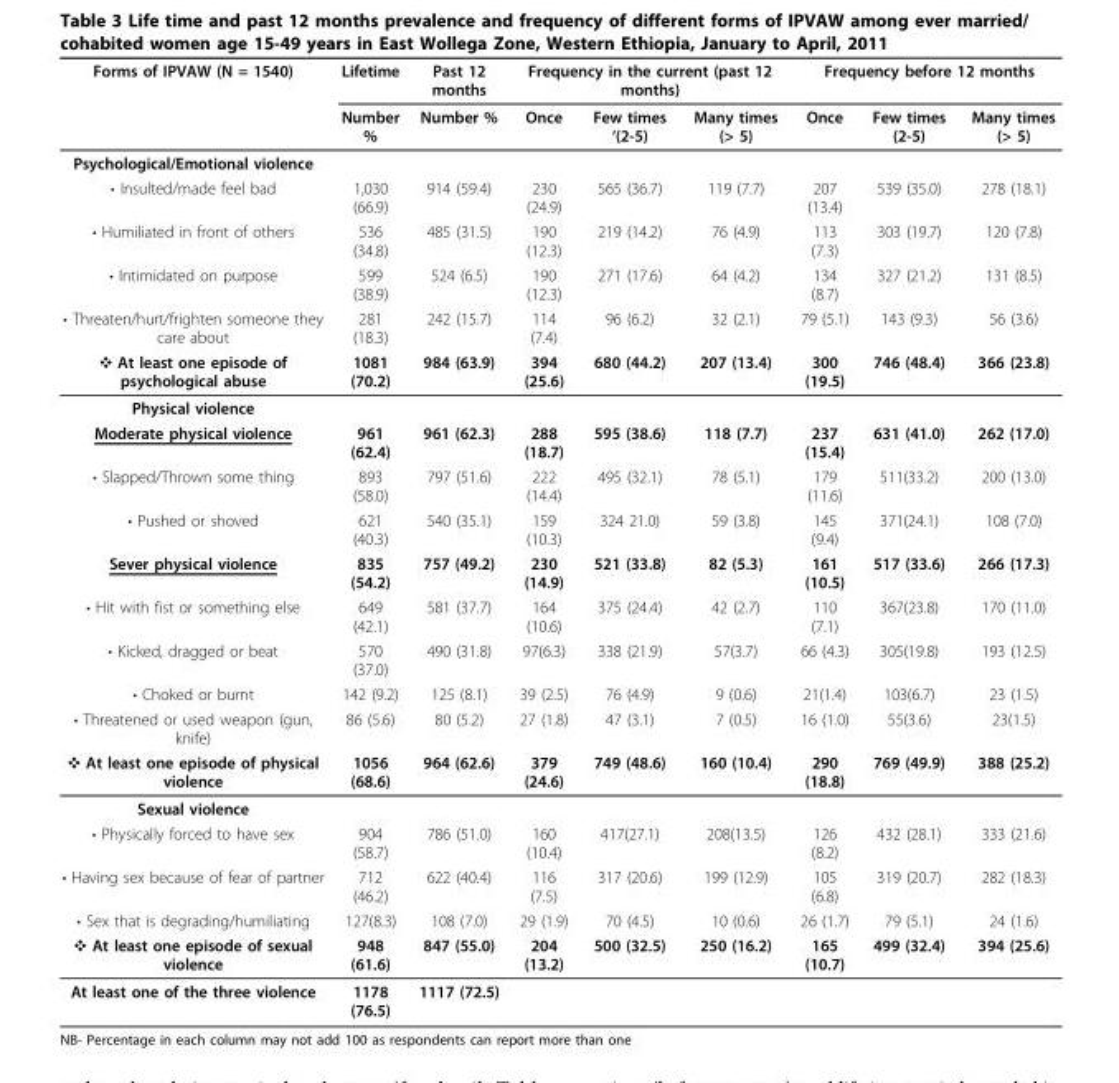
<table><thead><tr><td rowspan="2">Forms of IPVAW (N = 1540)</td><td rowspan="2">Lifetime Number %</td><td rowspan="2">Past 12 months Number %</td><td colspan="3">Frequency in the current (past 12 months)</td><td colspan="3">Frequency before 12 months</td></tr><tr><td>Once</td><td>Few times ‘(2-5)</td><td>Many times (&gt; 5)</td><td>Once</td><td>Few times (2-5)</td><td>Many times (&gt; 5)</td></tr></thead><tbody><tr><td colspan="9">Psychological/Emotional violence</td></tr><tr><td>• Insulted/made feel bad</td><td>1,030 (66.9)</td><td>914 (59.4)</td><td>230 (24.9)</td><td>565 (36.7)</td><td>119 (7.7)</td><td>207 (13.4)</td><td>539 (35.0)</td><td>278 (18.1)</td></tr><tr><td>• Humiliated in front of others</td><td>536 (34.8)</td><td>485 (31.5)</td><td>190 (12.3)</td><td>219 (14.2)</td><td>76 (4.9)</td><td>113 (7.3)</td><td>303 (19.7)</td><td>120 (7.8)</td></tr><tr><td>• Intimidated on purpose</td><td>599 (38.9)</td><td>524 (6.5)</td><td>190 (12.3)</td><td>271 (17.6)</td><td>64 (4.2)</td><td>134 (8.7)</td><td>327 (21.2)</td><td>131 (8.5)</td></tr><tr><td>• Threaten/hurt/frighten someone they care about</td><td>281 (18.3)</td><td>242 (15.7)</td><td>114 (7.4)</td><td>96 (6.2)</td><td>32 (2.1)</td><td>79 (5.1)</td><td>143 (9.3)</td><td>56 (3.6)</td></tr><tr><td>❖ At least one episode of psychological abuse</td><td>1081 (70.2)</td><td>984 (63.9)</td><td>394 (25.6)</td><td>680 (44.2)</td><td>207 (13.4)</td><td>300 (19.5)</td><td>746 (48.4)</td><td>366 (23.8)</td></tr><tr><td colspan="9">Physical violence</td></tr><tr><td>Moderate physical violence</td><td>961 (62.4)</td><td>961 (62.3)</td><td>288 (18.7)</td><td>595 (38.6)</td><td>118 (7.7)</td><td>237 (15.4)</td><td>631 (41.0)</td><td>262 (17.0)</td></tr><tr><td>• Slapped/Thrown some thing</td><td>893 (58.0)</td><td>797 (51.6)</td><td>222 (14.4)</td><td>495 (32.1)</td><td>78 (5.1)</td><td>179 (11.6)</td><td>511(33.2)</td><td>200 (13.0)</td></tr><tr><td>• Pushed or shoved</td><td>621 (40.3)</td><td>540 (35.1)</td><td>159 (10.3)</td><td>324 21.0)</td><td>59 (3.8)</td><td>145 (9.4)</td><td>371(24.1)</td><td>108 (7.0)</td></tr><tr><td>Sever physical violence</td><td>835 (54.2)</td><td>757 (49.2)</td><td>230 (14.9)</td><td>521 (33.8)</td><td>82 (5.3)</td><td>161 (10.5)</td><td>517 (33.6)</td><td>266 (17.3)</td></tr><tr><td>• Hit with fist or something else</td><td>649 (42.1)</td><td>581 (37.7)</td><td>164 (10.6)</td><td>375 (24.4)</td><td>42 (2.7)</td><td>110 (7.1)</td><td>367(23.8)</td><td>170 (11.0)</td></tr><tr><td>• Kicked, dragged or beat</td><td>570 (37.0)</td><td>490 (31.8)</td><td>97(6.3)</td><td>338 (21.9)</td><td>57(3.7)</td><td>66 (4.3)</td><td>305(19.8)</td><td>193 (12.5)</td></tr><tr><td>• Choked or burnt</td><td>142 (9.2)</td><td>125 (8.1)</td><td>39 (2.5)</td><td>76 (4.9)</td><td>9 (0.6)</td><td>21(1.4)</td><td>103(6.7)</td><td>23 (1.5)</td></tr><tr><td>• Threatened or used weapon (gun, knife)</td><td>86 (5.6)</td><td>80 (5.2)</td><td>27 (1.8)</td><td>47 (3.1)</td><td>7 (0.5)</td><td>16 (1.0)</td><td>55(3.6)</td><td>23(1.5)</td></tr><tr><td>❖ At least one episode of physical violence</td><td>1056 (68.6)</td><td>964 (62.6)</td><td>379 (24.6)</td><td>749 (48.6)</td><td>160 (10.4)</td><td>290 (18.8)</td><td>769 (49.9)</td><td>388 (25.2)</td></tr><tr><td colspan="9">Sexual violence</td></tr><tr><td>• Physically forced to have sex</td><td>904 (58.7)</td><td>786 (51.0)</td><td>160 (10.4)</td><td>417(27.1)</td><td>208(13.5)</td><td>126 (8.2)</td><td>432 (28.1)</td><td>333 (21.6)</td></tr><tr><td>• Having sex because of fear of partner</td><td>712 (46.2)</td><td>622 (40.4)</td><td>116 (7.5)</td><td>317 (20.6)</td><td>199 (12.9)</td><td>105 (6.8)</td><td>319 (20.7)</td><td>282 (18.3)</td></tr><tr><td>• Sex that is degrading/humiliating</td><td>127(8.3)</td><td>108 (7.0)</td><td>29 (1.9)</td><td>70 (4.5)</td><td>10 (0.6)</td><td>26 (1.7)</td><td>79 (5.1)</td><td>24 (1.6)</td></tr><tr><td>❖ At least one episode of sexual violence</td><td>948 (61.6)</td><td>847 (55.0)</td><td>204 (13.2)</td><td>500 (32.5)</td><td>250 (16.2)</td><td>165 (10.7)</td><td>499 (32.4)</td><td>394 (25.6)</td></tr><tr><td>At least one of the three violence</td><td>1178 (76.5)</td><td>1117 (72.5)</td><td></td><td></td><td></td><td></td><td></td><td></td></tr></tbody></table>